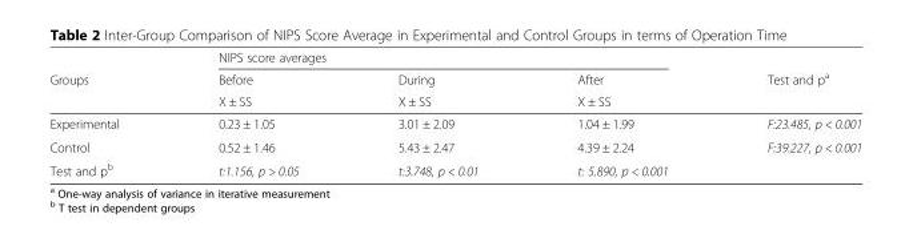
<table><thead><tr><td rowspan="3">Groups</td><td colspan="3">NIPS score averages</td><td rowspan="3">Test and p<sup>a</sup></td></tr><tr><td rowspan="2">Before X ± SS</td><td rowspan="2">During X ± SS</td><td rowspan="2">After X ± SS</td></tr><tr></tr></thead><tbody><tr><td>Experimental</td><td>0.23 ± 1.05</td><td>3.01 ± 2.09</td><td>1.04 ± 1.99</td><td>F:23.485, p &lt; 0.001</td></tr><tr><td>Control</td><td>0.52 ± 1.46</td><td>5.43 ± 2.47</td><td>4.39 ± 2.24</td><td>F:39.227, p &lt; 0.001</td></tr><tr><td>Test and p<sup>b</sup></td><td>t:1.156, p &gt; 0.05</td><td>t:3.748, p &lt; 0.01</td><td>t: 5.890, p &lt; 0.001</td><td></td></tr></tbody></table>